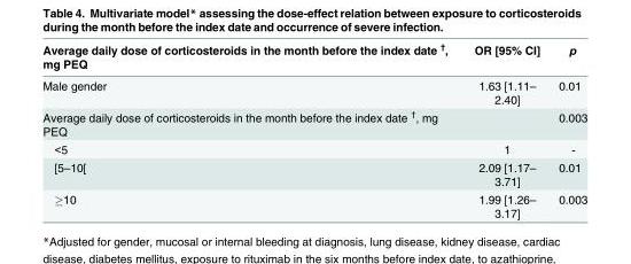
<table><thead><tr><td>Average daily dose of corticosteroids in the month before the index date <sup>†</sup>, mg PEQ</td><td>OR [95% CI]</td><td>p</td></tr></thead><tbody><tr><td>Male gender</td><td>1.63 [1.11– 2.40]</td><td>0.01</td></tr><tr><td>Average daily dose of corticosteroids in the month before the index date <sup>†</sup>, mg PEQ</td><td></td><td>0.003</td></tr><tr><td>&lt;5</td><td>1</td><td>-</td></tr><tr><td>[5–10[</td><td>2.09 [1.17– 3.71]</td><td>0.01</td></tr><tr><td>≥10</td><td>1.99 [1.26– 3.17]</td><td>0.003</td></tr></tbody></table>